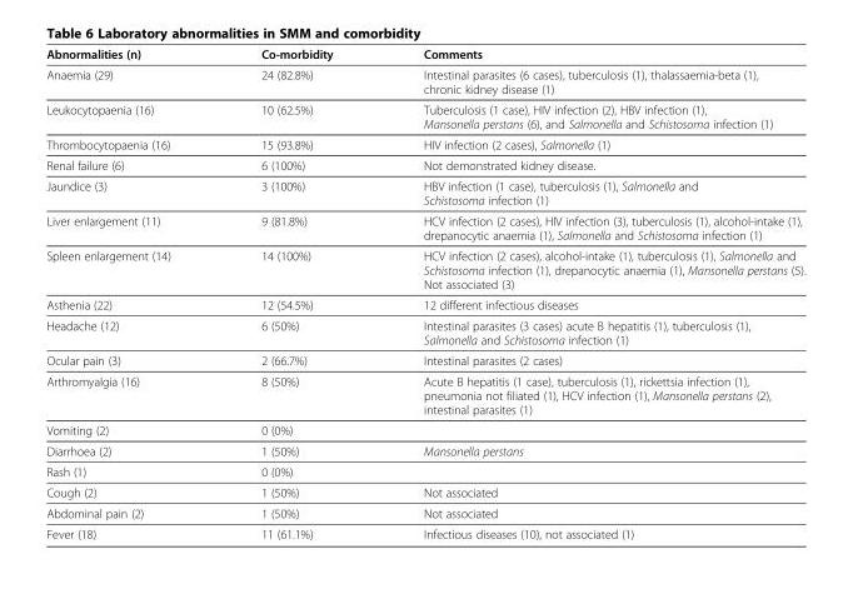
<table><thead><tr><td>Abnormalities (n)</td><td>Co-morbidity</td><td>Comments</td></tr></thead><tbody><tr><td>Anaemia (29)</td><td>24 (82.8%)</td><td>Intestinal parasites (6 cases), tuberculosis (1), thalassaemia-beta (1), chronic kidney disease (1)</td></tr><tr><td>Leukocytopaenia (16)</td><td>10 (62.5%)</td><td>Tuberculosis (1 case), HIV infection (2), HBV infection (1), Mansonella perstans (6), and Salmonella and Schistosoma infection (1)</td></tr><tr><td>Thrombocytopaenia (16)</td><td>15 (93.8%)</td><td>HIV infection (2 cases), Salmonella (1)</td></tr><tr><td>Renal failure (6)</td><td>6 (100%)</td><td>Not demonstrated kidney disease.</td></tr><tr><td>Jaundice (3)</td><td>3 (100%)</td><td>HBV infection (1 case), tuberculosis (1), Salmonella and Schistosoma infection (1)</td></tr><tr><td>Liver enlargement (11)</td><td>9 (81.8%)</td><td>HCV infection (2 cases), HIV infection (3), tuberculosis (1), alcohol-intake (1), drepanocytic anaemia (1), Salmonella and Schistosoma infection (1)</td></tr><tr><td>Spleen enlargement (14)</td><td>14 (100%)</td><td>HCV infection (2 cases), alcohol-intake (1), tuberculosis (1), Salmonella and Schistosoma infection (1), drepanocytic anaemia (1), Mansonella perstans (5). Not associated (3)</td></tr><tr><td>Asthenia (22)</td><td>12 (54.5%)</td><td>12 different infectious diseases</td></tr><tr><td>Headache (12)</td><td>6 (50%)</td><td>Intestinal parasites (3 cases) acute B hepatitis (1), tuberculosis (1), Salmonella and Schistosoma infection (1)</td></tr><tr><td>Ocular pain (3)</td><td>2 (66.7%)</td><td>Intestinal parasites (2 cases)</td></tr><tr><td>Arthromyalgia (16)</td><td>8 (50%)</td><td>Acute B hepatitis (1 case), tuberculosis (1), rickettsia infection (1), pneumonia not filiated (1), HCV infection (1), Mansonella perstans (2), intestinal parasites (1)</td></tr><tr><td>Vomiting (2)</td><td>0 (0%)</td><td></td></tr><tr><td>Diarrhoea (2)</td><td>1 (50%)</td><td>Mansonella perstans</td></tr><tr><td>Rash (1)</td><td>0 (0%)</td><td></td></tr><tr><td>Cough (2)</td><td>1 (50%)</td><td>Not associated</td></tr><tr><td>Abdominal pain (2)</td><td>1 (50%)</td><td>Not associated</td></tr><tr><td>Fever (18)</td><td>11 (61.1%)</td><td>Infectious diseases (10), not associated (1)</td></tr></tbody></table>